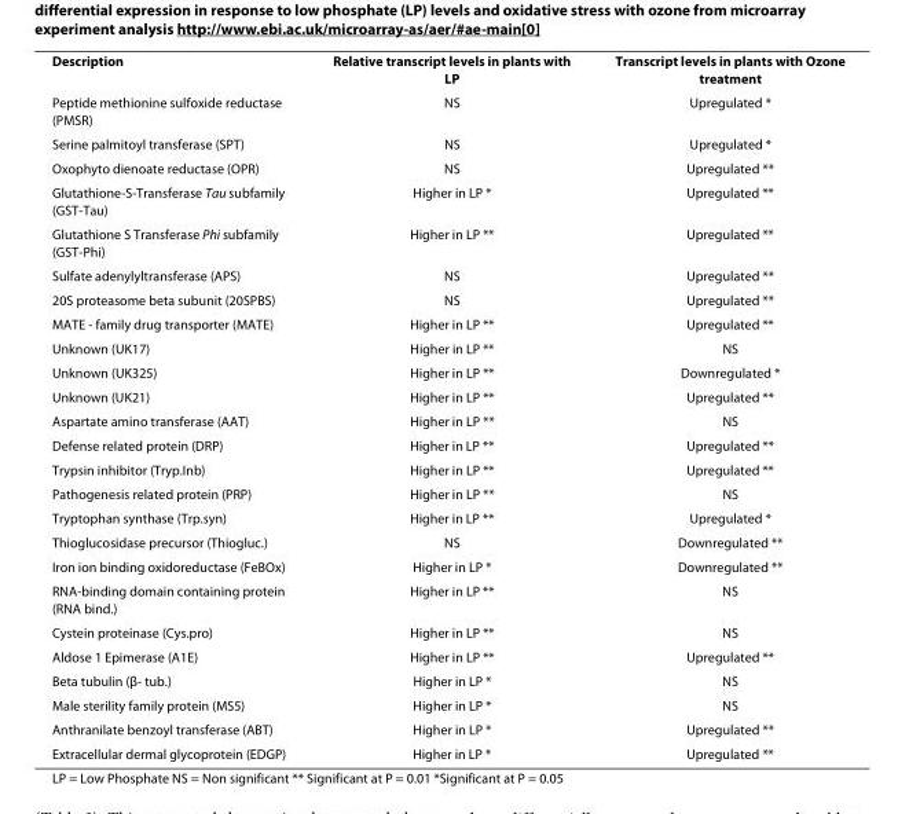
<table><tbody><tr><td>Description</td><td>Relative transcript levels in plants with LP</td><td>Transcript levels in plants with Ozone treatment</td></tr><tr><td>Peptide methionine sulfoxide reductase (PMSR)</td><td>NS</td><td>Upregulated *</td></tr><tr><td>Serine palmitoyl transferase (SPT)</td><td>NS</td><td>Upregulated *</td></tr><tr><td>Oxophyto dienoate reductase (OPR)</td><td>NS</td><td>Upregulated **</td></tr><tr><td>Glutathione-S-Transferase Tau subfamily (GST-Tau)</td><td>Higher in LP *</td><td>Upregulated **</td></tr><tr><td>Glutathione S Transferase Phi subfamily (GST-Phi)</td><td>Higher in LP **</td><td>Upregulated **</td></tr><tr><td>Sulfate adenylyltransferase (APS)</td><td>NS</td><td>Upregulated **</td></tr><tr><td>20S proteasome beta subunit (20SPBS)</td><td>NS</td><td>Upregulated **</td></tr><tr><td>MATE - family drug transporter (MATE)</td><td>Higher in LP **</td><td>Upregulated **</td></tr><tr><td>Unknown (UK17)</td><td>Higher in LP **</td><td>NS</td></tr><tr><td>Unknown (UK325)</td><td>Higher in LP **</td><td>Downregulated *</td></tr><tr><td>Unknown (UK21)</td><td>Higher in LP **</td><td>Upregulated **</td></tr><tr><td>Aspartate amino transferase (AAT)</td><td>Higher in LP **</td><td>NS</td></tr><tr><td>Defense related protein (DRP)</td><td>Higher in LP **</td><td>Upregulated **</td></tr><tr><td>Trypsin inhibitor (Tryp.Inb)</td><td>Higher in LP **</td><td>Upregulated **</td></tr><tr><td>Pathogenesis related protein (PRP)</td><td>Higher in LP **</td><td>NS</td></tr><tr><td>Tryptophan synthase (Trp.syn)</td><td>Higher in LP **</td><td>Upregulated *</td></tr><tr><td>Thioglucosidase precursor (Thiogluc.)</td><td>NS</td><td>Downregulated **</td></tr><tr><td>Iron ion binding oxidoreductase (FeBOx)</td><td>Higher in LP *</td><td>Downregulated **</td></tr><tr><td>RNA-binding domain containing protein (RNA bind.)</td><td>Higher in LP **</td><td>NS</td></tr><tr><td>Cystein proteinase (Cys.pro)</td><td>Higher in LP **</td><td>NS</td></tr><tr><td>Aldose 1 Epimerase (A1E)</td><td>Higher in LP **</td><td>Upregulated **</td></tr><tr><td>Beta tubulin (β- tub.)</td><td>Higher in LP *</td><td>NS</td></tr><tr><td>Male sterility family protein (MS5)</td><td>Higher in LP *</td><td>NS</td></tr><tr><td>Anthranilate benzoyl transferase (ABT)</td><td>Higher in LP *</td><td>Upregulated **</td></tr><tr><td>Extracellular dermal glycoprotein (EDGP)</td><td>Higher in LP *</td><td>Upregulated **</td></tr></tbody></table>